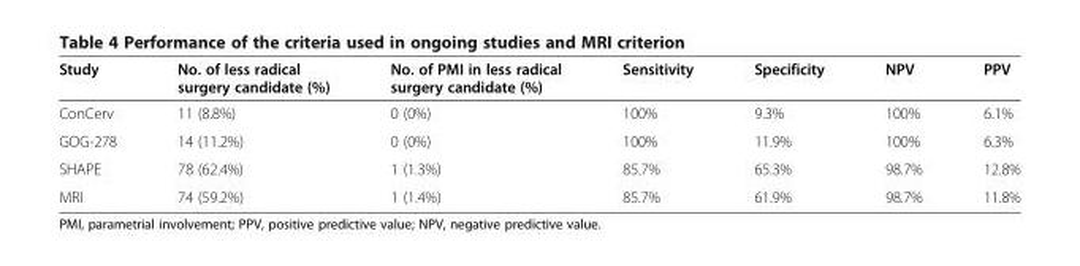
<table><thead><tr><td>Study</td><td>No. of less radical surgery candidate (%)</td><td>No. of PMI in less radical surgery candidate (%)</td><td>Sensitivity</td><td>Specificity</td><td>NPV</td><td>PPV</td></tr></thead><tbody><tr><td>ConCerv</td><td>11 (8.8%)</td><td>0 (0%)</td><td>100%</td><td>9.3%</td><td>100%</td><td>6.1%</td></tr><tr><td>GOG-278</td><td>14 (11.2%)</td><td>0 (0%)</td><td>100%</td><td>11.9%</td><td>100%</td><td>6.3%</td></tr><tr><td>SHAPE</td><td>78 (62.4%)</td><td>1 (1.3%)</td><td>85.7%</td><td>65.3%</td><td>98.7%</td><td>12.8%</td></tr><tr><td>MRI</td><td>74 (59.2%)</td><td>1 (1.4%)</td><td>85.7%</td><td>61.9%</td><td>98.7%</td><td>11.8%</td></tr></tbody></table>